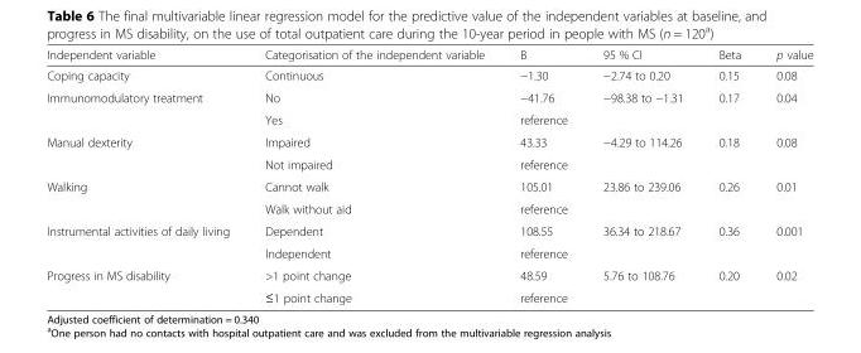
<table><thead><tr><td>Independent variable</td><td>Categorisation of the independent variable</td><td>B</td><td>95 % CI</td><td>Beta</td><td>p value</td></tr></thead><tbody><tr><td>Coping capacity</td><td>Continuous</td><td>−1.30</td><td>−2.74 to 0.20</td><td>0.15</td><td>0.08</td></tr><tr><td rowspan="2">Immunomodulatory treatment</td><td>No</td><td>−41.76</td><td rowspan="2">−98.38 to −1.31</td><td rowspan="2">0.17</td><td rowspan="2">0.04</td></tr><tr><td>Yes</td><td>reference</td></tr><tr><td rowspan="2">Manual dexterity</td><td>Impaired</td><td>43.33</td><td rowspan="2">−4.29 to 114.26</td><td rowspan="2">0.18</td><td rowspan="2">0.08</td></tr><tr><td>Not impaired</td><td>reference</td></tr><tr><td rowspan="2">Walking</td><td>Cannot walk</td><td>105.01</td><td rowspan="2">23.86 to 239.06</td><td rowspan="2">0.26</td><td rowspan="2">0.01</td></tr><tr><td>Walk without aid</td><td>reference</td></tr><tr><td rowspan="2">Instrumental activities of daily living</td><td>Dependent</td><td>108.55</td><td rowspan="2">36.34 to 218.67</td><td rowspan="2">0.36</td><td rowspan="2">0.001</td></tr><tr><td>Independent</td><td>reference</td></tr><tr><td rowspan="2">Progress in MS disability</td><td>&gt;1 point change</td><td>48.59</td><td rowspan="2">5.76 to 108.76</td><td rowspan="2">0.20</td><td rowspan="2">0.02</td></tr><tr><td>≤1 point change</td><td>reference</td></tr></tbody></table>